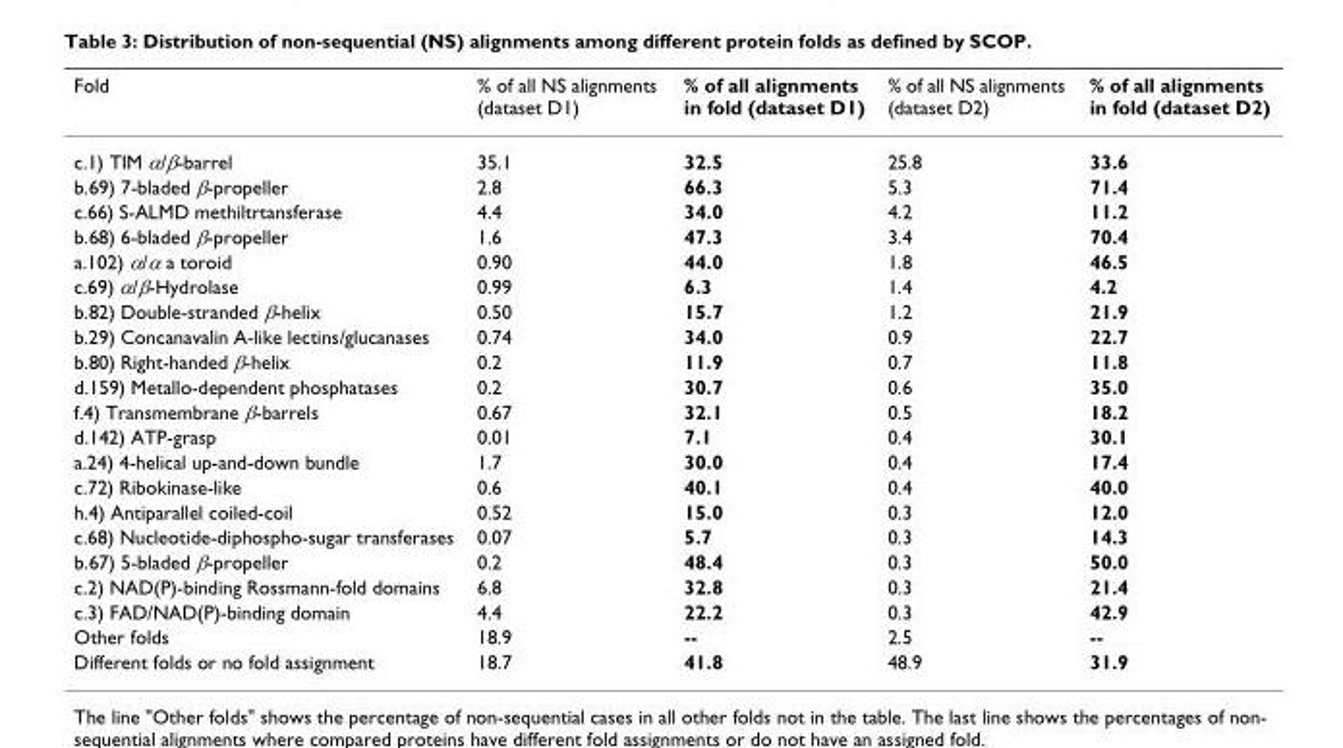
<table><thead><tr><td>Fold</td><td>% of all NS alignments (dataset D1)</td><td>% of all alignments in fold (dataset D1)</td><td>% of all NS alignments (dataset D2)</td><td>% of all alignments in fold (dataset D2)</td></tr></thead><tbody><tr><td>c.1) TIM α/β-barrel</td><td>35.1</td><td>32.5</td><td>25.8</td><td>33.6</td></tr><tr><td>b.69) 7-bladed β-propeller</td><td>2.8</td><td>66.3</td><td>5.3</td><td>71.4</td></tr><tr><td>c.66) S-ALMD methiltrtansferase</td><td>4.4</td><td>34.0</td><td>4.2</td><td>11.2</td></tr><tr><td>b.68) 6-bladed β-propeller</td><td>1.6</td><td>47.3</td><td>3.4</td><td>70.4</td></tr><tr><td>a.102) α/α a toroid</td><td>0.90</td><td>44.0</td><td>1.8</td><td>46.5</td></tr><tr><td>c.69) α/β-Hydrolase</td><td>0.99</td><td>6.3</td><td>1.4</td><td>4.2</td></tr><tr><td>b.82) Double-stranded β-helix</td><td>0.50</td><td>15.7</td><td>1.2</td><td>21.9</td></tr><tr><td>b.29) Concanavalin A-like lectins/glucanases</td><td>0.74</td><td>34.0</td><td>0.9</td><td>22.7</td></tr><tr><td>b.80) Right-handed β-helix</td><td>0.2</td><td>11.9</td><td>0.7</td><td>11.8</td></tr><tr><td>d.159) Metallo-dependent phosphatases</td><td>0.2</td><td>30.7</td><td>0.6</td><td>35.0</td></tr><tr><td>f.4) Transmembrane β-barrels</td><td>0.67</td><td>32.1</td><td>0.5</td><td>18.2</td></tr><tr><td>d.142) ATP-grasp</td><td>0.01</td><td>7.1</td><td>0.4</td><td>30.1</td></tr><tr><td>a.24) 4-helical up-and-down bundle</td><td>1.7</td><td>30.0</td><td>0.4</td><td>17.4</td></tr><tr><td>c.72) Ribokinase-like</td><td>0.6</td><td>40.1</td><td>0.4</td><td>40.0</td></tr><tr><td>h.4) Antiparallel coiled-coil</td><td>0.52</td><td>15.0</td><td>0.3</td><td>12.0</td></tr><tr><td>c.68) Nucleotide-diphospho-sugar transferases</td><td>0.07</td><td>5.7</td><td>0.3</td><td>14.3</td></tr><tr><td>b.67) 5-bladed β-propeller</td><td>0.2</td><td>48.4</td><td>0.3</td><td>50.0</td></tr><tr><td>c.2) NAD(P)-binding Rossmann-fold domains</td><td>6.8</td><td>32.8</td><td>0.3</td><td>21.4</td></tr><tr><td>c.3) FAD/NAD(P)-binding domain</td><td>4.4</td><td>22.2</td><td>0.3</td><td>42.9</td></tr><tr><td>Other folds</td><td>18.9</td><td>--</td><td>2.5</td><td>--</td></tr><tr><td>Different folds or no fold assignment</td><td>18.7</td><td>41.8</td><td>48.9</td><td>31.9</td></tr></tbody></table>